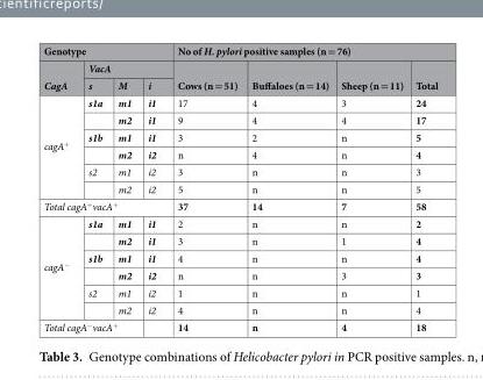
<table><thead><tr><td colspan="4">Genotype</td><td colspan="4">No of H. pylori positive samples (n = 76)</td></tr><tr><td rowspan="2">CagA</td><td colspan="3">VacA</td><td rowspan="2">Cows (n = 51)</td><td rowspan="2">Buffaloes (n = 14)</td><td rowspan="2">Sheep (n = 11)</td><td rowspan="2">Total</td></tr><tr><td>s</td><td>M</td><td>i</td></tr></thead><tbody><tr><td rowspan="6">cagA<sup>+</sup></td><td>s1a</td><td>m1</td><td>i1</td><td>17</td><td>4</td><td>3</td><td>24</td></tr><tr><td></td><td>m2</td><td>i1</td><td>9</td><td>4</td><td>4</td><td>17</td></tr><tr><td>s1b</td><td>m1</td><td>i1</td><td>3</td><td>2</td><td>n</td><td>5</td></tr><tr><td></td><td>m2</td><td>i2</td><td>n</td><td>4</td><td>n</td><td>4</td></tr><tr><td>s2</td><td>m1</td><td>i2</td><td>3</td><td>n</td><td>n</td><td>3</td></tr><tr><td></td><td>m2</td><td>i2</td><td>5</td><td>n</td><td>n</td><td>5</td></tr><tr><td colspan="4">Total cagA<sup>+</sup>vacA<sup>+</sup></td><td>37</td><td>14</td><td>7</td><td>58</td></tr><tr><td rowspan="6">cagA<sup>−</sup></td><td>s1a</td><td>m1</td><td>i1</td><td>2</td><td>n</td><td>n</td><td>2</td></tr><tr><td></td><td>m2</td><td>i1</td><td>3</td><td>n</td><td>1</td><td>4</td></tr><tr><td>s1b</td><td>m1</td><td>i1</td><td>4</td><td>n</td><td>n</td><td>4</td></tr><tr><td></td><td>m2</td><td>i2</td><td>n</td><td>n</td><td>3</td><td>3</td></tr><tr><td>s2</td><td>m1</td><td>i2</td><td>1</td><td>n</td><td>n</td><td>1</td></tr><tr><td></td><td>m2</td><td>i2</td><td>4</td><td>n</td><td>n</td><td>4</td></tr><tr><td colspan="3">Total cagA<sup>−</sup>vacA<sup>+</sup></td><td></td><td>14</td><td>n</td><td>4</td><td>18</td></tr></tbody></table>